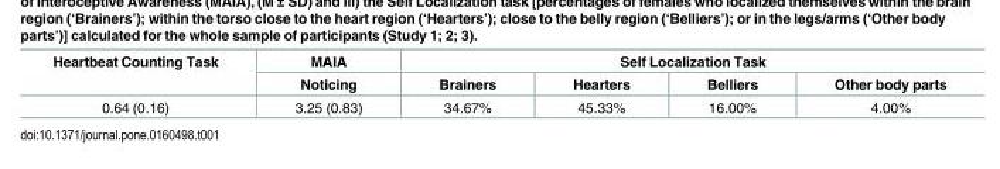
<table><thead><tr><td rowspan="2">Heartbeat Counting Task</td><td rowspan="2">MAIA Noticing</td><td colspan="4">Self Localization Task</td></tr><tr><td>Brainers</td><td>Hearters</td><td>Belliers</td><td>Other body parts</td></tr></thead><tbody><tr><td>0.64 (0.16)</td><td>3.25 (0.83)</td><td>34.67%</td><td>45.33%</td><td>16.00%</td><td>4.00%</td></tr></tbody></table>